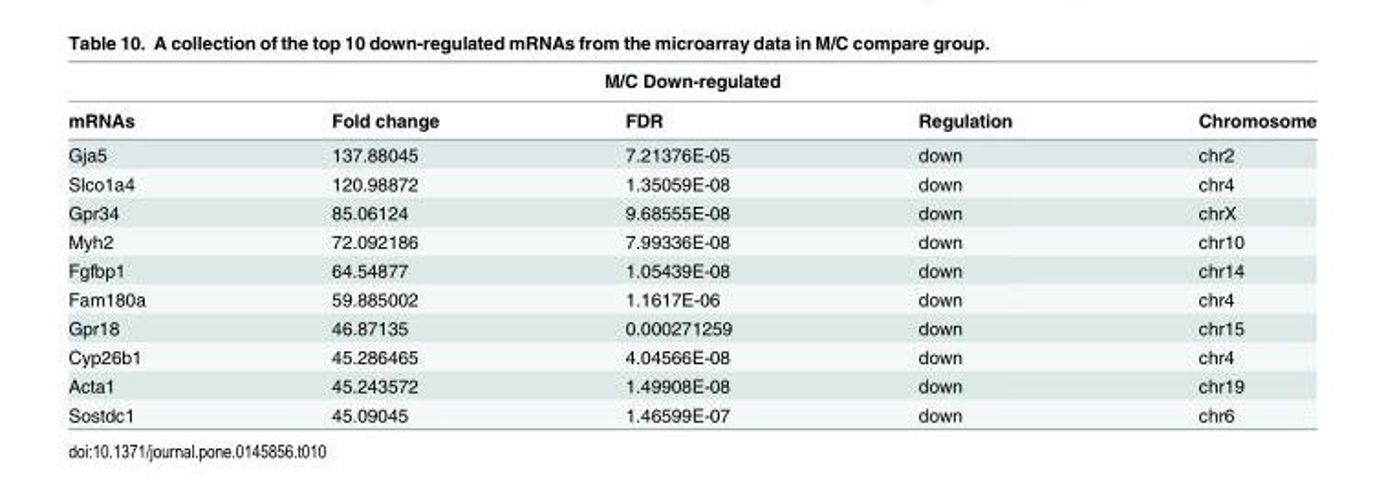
<table><thead><tr><td colspan="5">M/C Down-regulated</td></tr><tr><td>mRNAs</td><td>Fold change</td><td>FDR</td><td>Regulation</td><td>Chromosome</td></tr></thead><tbody><tr><td>Gja5</td><td>137.88045</td><td>7.21376E-05</td><td>down</td><td>chr2</td></tr><tr><td>Slco1a4</td><td>120.98872</td><td>1.35059E-08</td><td>down</td><td>chr4</td></tr><tr><td>Gpr34</td><td>85.06124</td><td>9.68555E-08</td><td>down</td><td>chrX</td></tr><tr><td>Myh2</td><td>72.092186</td><td>7.99336E-08</td><td>down</td><td>chr10</td></tr><tr><td>Fgfbp1</td><td>64.54877</td><td>1.05439E-08</td><td>down</td><td>chr14</td></tr><tr><td>Fam180a</td><td>59.885002</td><td>1.1617E-06</td><td>down</td><td>chr4</td></tr><tr><td>Gpr18</td><td>46.87135</td><td>0.000271259</td><td>down</td><td>chr15</td></tr><tr><td>Cyp26b1</td><td>45.286465</td><td>4.04566E-08</td><td>down</td><td>chr4</td></tr><tr><td>Acta1</td><td>45.243572</td><td>1.49908E-08</td><td>down</td><td>chr19</td></tr><tr><td>Sostdc1</td><td>45.09045</td><td>1.46599E-07</td><td>down</td><td>chr6</td></tr></tbody></table>